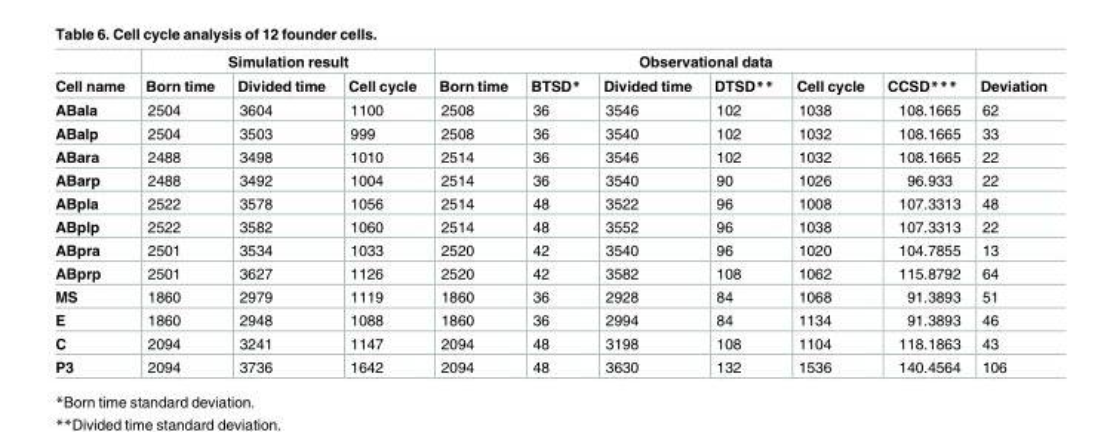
<table><thead><tr><td rowspan="2">Cell name</td><td colspan="3">Simulation result</td><td colspan="6">Observational data</td><td rowspan="2">Deviation</td></tr><tr><td>Born time</td><td>Divided time</td><td>Cell cycle</td><td>Born time</td><td>BTSD*</td><td>Divided time</td><td>DTSD**</td><td>Cell cycle</td><td>CCSD***</td></tr></thead><tbody><tr><td>ABala</td><td>2504</td><td>3604</td><td>1100</td><td>2508</td><td>36</td><td>3546</td><td>102</td><td>1038</td><td>108.1665</td><td>62</td></tr><tr><td>ABalp</td><td>2504</td><td>3503</td><td>999</td><td>2508</td><td>36</td><td>3540</td><td>102</td><td>1032</td><td>108.1665</td><td>33</td></tr><tr><td>ABara</td><td>2488</td><td>3498</td><td>1010</td><td>2514</td><td>36</td><td>3546</td><td>102</td><td>1032</td><td>108.1665</td><td>22</td></tr><tr><td>ABarp</td><td>2488</td><td>3492</td><td>1004</td><td>2514</td><td>36</td><td>3540</td><td>90</td><td>1026</td><td>96.933</td><td>22</td></tr><tr><td>ABpla</td><td>2522</td><td>3578</td><td>1056</td><td>2514</td><td>48</td><td>3522</td><td>96</td><td>1008</td><td>107.3313</td><td>48</td></tr><tr><td>ABplp</td><td>2522</td><td>3582</td><td>1060</td><td>2514</td><td>48</td><td>3552</td><td>96</td><td>1038</td><td>107.3313</td><td>22</td></tr><tr><td>ABpra</td><td>2501</td><td>3534</td><td>1033</td><td>2520</td><td>42</td><td>3540</td><td>96</td><td>1020</td><td>104.7855</td><td>13</td></tr><tr><td>ABprp</td><td>2501</td><td>3627</td><td>1126</td><td>2520</td><td>42</td><td>3582</td><td>108</td><td>1062</td><td>115.8792</td><td>64</td></tr><tr><td>MS</td><td>1860</td><td>2979</td><td>1119</td><td>1860</td><td>36</td><td>2928</td><td>84</td><td>1068</td><td>91.3893</td><td>51</td></tr><tr><td>E</td><td>1860</td><td>2948</td><td>1088</td><td>1860</td><td>36</td><td>2994</td><td>84</td><td>1134</td><td>91.3893</td><td>46</td></tr><tr><td>C</td><td>2094</td><td>3241</td><td>1147</td><td>2094</td><td>48</td><td>3198</td><td>108</td><td>1104</td><td>118.1863</td><td>43</td></tr><tr><td>P3</td><td>2094</td><td>3736</td><td>1642</td><td>2094</td><td>48</td><td>3630</td><td>132</td><td>1536</td><td>140.4564</td><td>106</td></tr></tbody></table>